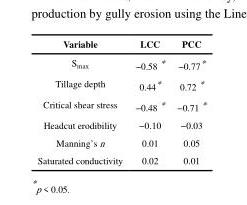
<table><thead><tr><td>Variable</td><td>LCC</td><td>PCC</td></tr></thead><tbody><tr><td>S<sub>max</sub></td><td>−0.58 *</td><td>−0.77*</td></tr><tr><td>Tillage depth</td><td>0.44*</td><td>0.72 *</td></tr><tr><td>Critical shear stress</td><td>−0.48 *</td><td>−0.71 *</td></tr><tr><td>Headcut erodibility</td><td>−0.10</td><td>−0.03</td></tr><tr><td>Manning’s n</td><td>0.01</td><td>0.05</td></tr><tr><td>Saturated conductivity</td><td>0.02</td><td>0.01</td></tr></tbody></table>